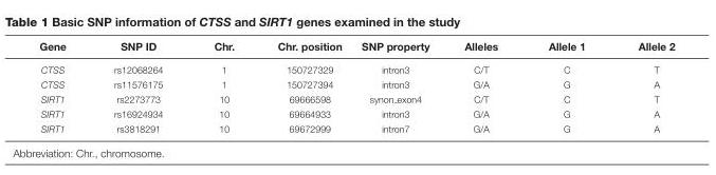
<table><thead><tr><td>Gene</td><td>SNP ID</td><td>Chr.</td><td>Chr. position</td><td>SNP property</td><td>Alleles</td><td>Allele 1</td><td>Allele 2</td></tr></thead><tbody><tr><td>CTSS</td><td>rs12068264</td><td>1</td><td>150727329</td><td>intron3</td><td>C/T</td><td>C</td><td>T</td></tr><tr><td>CTSS</td><td>rs11576175</td><td>1</td><td>150727394</td><td>intron3</td><td>G/A</td><td>G</td><td>A</td></tr><tr><td>SIRT1</td><td>rs2273773</td><td>10</td><td>69666598</td><td>synon exon4</td><td>C/T</td><td>C</td><td>T</td></tr><tr><td>SIRT1</td><td>rs16924934</td><td>10</td><td>69664933</td><td>intron3</td><td>G/A</td><td>G</td><td>A</td></tr><tr><td>SIRT1</td><td>rs3818291</td><td>10</td><td>69672999</td><td>intron7</td><td>G/A</td><td>G</td><td>A</td></tr></tbody></table>